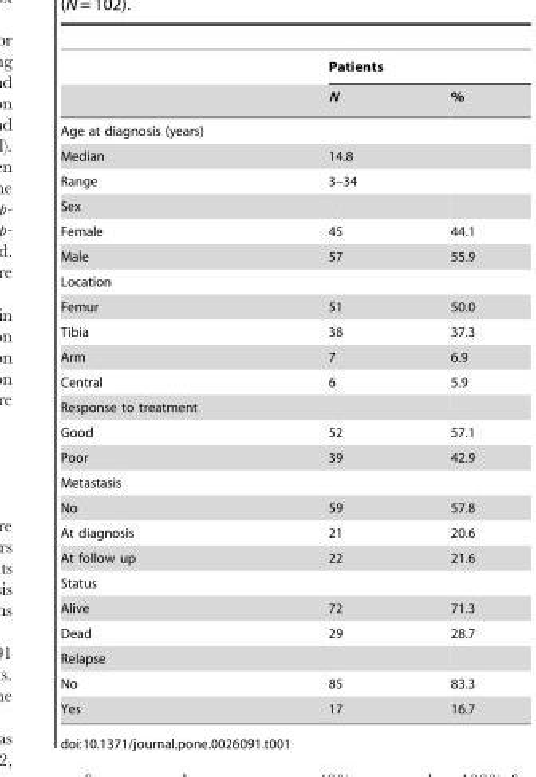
<table><thead><tr><td rowspan="2"></td><td colspan="2">Patients</td></tr><tr><td>N</td><td>%</td></tr></thead><tbody><tr><td colspan="3">Age at diagnosis (years)</td></tr><tr><td>Median</td><td colspan="2">14.8</td></tr><tr><td>Range</td><td colspan="2">3–34</td></tr><tr><td colspan="3">Sex</td></tr><tr><td>Female</td><td>45</td><td>44.1</td></tr><tr><td>Male</td><td>57</td><td>55.9</td></tr><tr><td colspan="3">Location</td></tr><tr><td>Femur</td><td>51</td><td>50.0</td></tr><tr><td>Tibia</td><td>38</td><td>37.3</td></tr><tr><td>Arm</td><td>7</td><td>6.9</td></tr><tr><td>Central</td><td>6</td><td>5.9</td></tr><tr><td colspan="3">Response to treatment</td></tr><tr><td>Good</td><td>52</td><td>57.1</td></tr><tr><td>Poor</td><td>39</td><td>42.9</td></tr><tr><td colspan="3">Metastasis</td></tr><tr><td>No</td><td>59</td><td>57.8</td></tr><tr><td>At diagnosis</td><td>21</td><td>20.6</td></tr><tr><td>At follow up</td><td>22</td><td>21.6</td></tr><tr><td colspan="3">Status</td></tr><tr><td>Alive</td><td>72</td><td>71.3</td></tr><tr><td>Dead</td><td>29</td><td>28.7</td></tr><tr><td colspan="3">Relapse</td></tr><tr><td>No</td><td>85</td><td>83.3</td></tr><tr><td>Yes</td><td>17</td><td>16.7</td></tr></tbody></table>